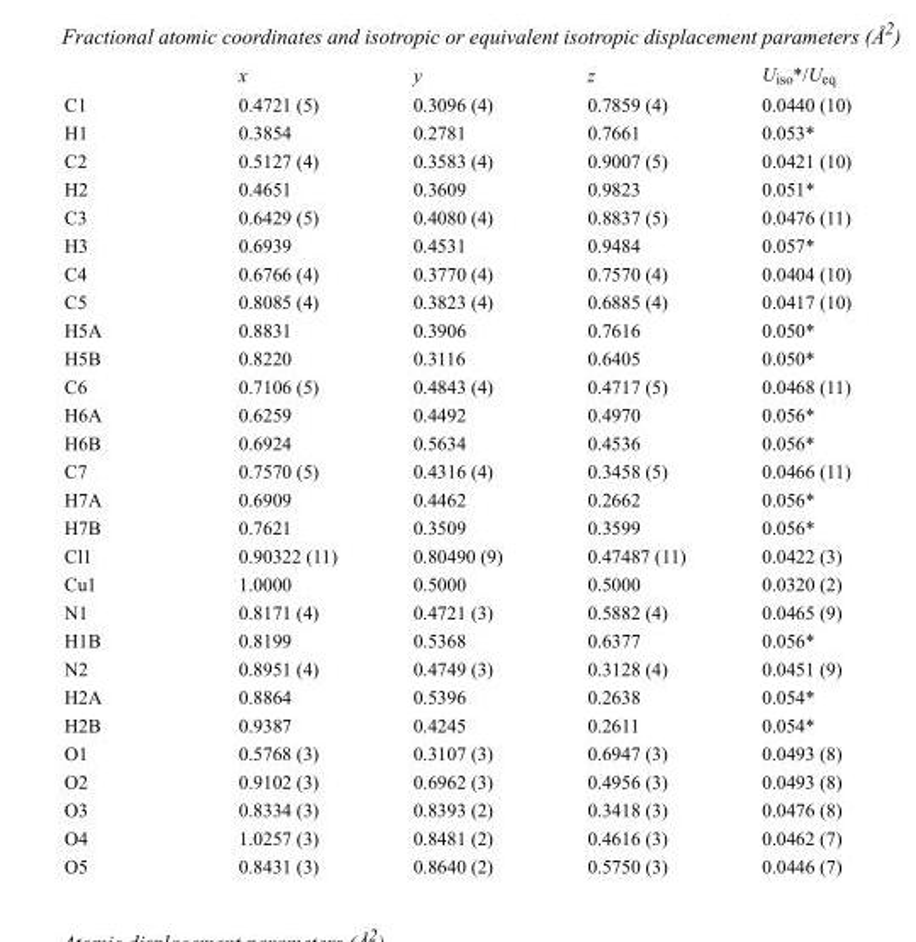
<table><thead><tr><td></td><td>x</td><td>y</td><td>z</td><td>U<sub>iso</sub>*/U<sub>eq</sub></td></tr></thead><tbody><tr><td>C1</td><td>0.4721 (5)</td><td>0.3096 (4)</td><td>0.7859 (4)</td><td>0.0440 (10)</td></tr><tr><td>H1</td><td>0.3854</td><td>0.2781</td><td>0.7661</td><td>0.053*</td></tr><tr><td>C2</td><td>0.5127 (4)</td><td>0.3583 (4)</td><td>0.9007 (5)</td><td>0.0421 (10)</td></tr><tr><td>H2</td><td>0.4651</td><td>0.3609</td><td>0.9823</td><td>0.051*</td></tr><tr><td>C3</td><td>0.6429 (5)</td><td>0.4080 (4)</td><td>0.8837 (5)</td><td>0.0476 (11)</td></tr><tr><td>H3</td><td>0.6939</td><td>0.4531</td><td>0.9484</td><td>0.057*</td></tr><tr><td>C4</td><td>0.6766 (4)</td><td>0.3770 (4)</td><td>0.7570 (4)</td><td>0.0404 (10)</td></tr><tr><td>C5</td><td>0.8085 (4)</td><td>0.3823 (4)</td><td>0.6885 (4)</td><td>0.0417 (10)</td></tr><tr><td>H5A</td><td>0.8831</td><td>0.3906</td><td>0.7616</td><td>0.050*</td></tr><tr><td>H5B</td><td>0.8220</td><td>0.3116</td><td>0.6405</td><td>0.050*</td></tr><tr><td>C6</td><td>0.7106 (5)</td><td>0.4843 (4)</td><td>0.4717 (5)</td><td>0.0468 (11)</td></tr><tr><td>H6A</td><td>0.6259</td><td>0.4492</td><td>0.4970</td><td>0.056*</td></tr><tr><td>H6B</td><td>0.6924</td><td>0.5634</td><td>0.4536</td><td>0.056*</td></tr><tr><td>C7</td><td>0.7570 (5)</td><td>0.4316 (4)</td><td>0.3458 (5)</td><td>0.0466 (11)</td></tr><tr><td>H7A</td><td>0.6909</td><td>0.4462</td><td>0.2662</td><td>0.056*</td></tr><tr><td>H7B</td><td>0.7621</td><td>0.3509</td><td>0.3599</td><td>0.056*</td></tr><tr><td>Cl1</td><td>0.90322 (11)</td><td>0.80490 (9)</td><td>0.47487 (11)</td><td>0.0422 (3)</td></tr><tr><td>Cu1</td><td>1.0000</td><td>0.5000</td><td>0.5000</td><td>0.0320 (2)</td></tr><tr><td>N1</td><td>0.8171 (4)</td><td>0.4721 (3)</td><td>0.5882 (4)</td><td>0.0465 (9)</td></tr><tr><td>H1B</td><td>0.8199</td><td>0.5368</td><td>0.6377</td><td>0.056*</td></tr><tr><td>N2</td><td>0.8951 (4)</td><td>0.4749 (3)</td><td>0.3128 (4)</td><td>0.0451 (9)</td></tr><tr><td>H2A</td><td>0.8864</td><td>0.5396</td><td>0.2638</td><td>0.054*</td></tr><tr><td>H2B</td><td>0.9387</td><td>0.4245</td><td>0.2611</td><td>0.054*</td></tr><tr><td>O1</td><td>0.5768 (3)</td><td>0.3107 (3)</td><td>0.6947 (3)</td><td>0.0493 (8)</td></tr><tr><td>O2</td><td>0.9102 (3)</td><td>0.6962 (3)</td><td>0.4956 (3)</td><td>0.0493 (8)</td></tr><tr><td>O3</td><td>0.8334 (3)</td><td>0.8393 (2)</td><td>0.3418 (3)</td><td>0.0476 (8)</td></tr><tr><td>O4</td><td>1.0257 (3)</td><td>0.8481 (2)</td><td>0.4616 (3)</td><td>0.0462 (7)</td></tr><tr><td>O5</td><td>0.8431 (3)</td><td>0.8640 (2)</td><td>0.5750 (3)</td><td>0.0446 (7)</td></tr></tbody></table>